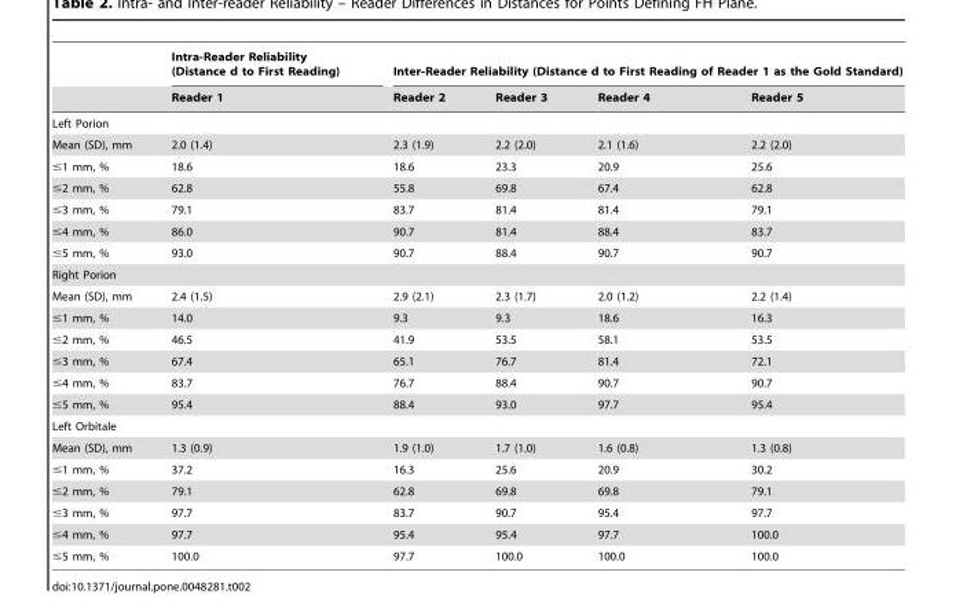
<table><thead><tr><td rowspan="2"></td><td rowspan="2">Intra-Reader Reliability (Distance d to First Reading) Reader 1</td><td colspan="4">Inter-Reader Reliability (Distance d to First Reading of Reader 1 as the Gold Standard)</td></tr><tr><td>Reader 2</td><td>Reader 3</td><td>Reader 4</td><td>Reader 5</td></tr></thead><tbody><tr><td colspan="6">Left Porion</td></tr><tr><td>Mean (SD), mm</td><td>2.0 (1.4)</td><td>2.3 (1.9)</td><td>2.2 (2.0)</td><td>2.1 (1.6)</td><td>2.2 (2.0)</td></tr><tr><td>≤1 mm, %</td><td>18.6</td><td>18.6</td><td>23.3</td><td>20.9</td><td>25.6</td></tr><tr><td>≤2 mm, %</td><td>62.8</td><td>55.8</td><td>69.8</td><td>67.4</td><td>62.8</td></tr><tr><td>≤3 mm, %</td><td>79.1</td><td>83.7</td><td>81.4</td><td>81.4</td><td>79.1</td></tr><tr><td>≤4 mm, %</td><td>86.0</td><td>90.7</td><td>81.4</td><td>88.4</td><td>83.7</td></tr><tr><td>≤5 mm, %</td><td>93.0</td><td>90.7</td><td>88.4</td><td>90.7</td><td>90.7</td></tr><tr><td colspan="6">Right Porion</td></tr><tr><td>Mean (SD), mm</td><td>2.4 (1.5)</td><td>2.9 (2.1)</td><td>2.3 (1.7)</td><td>2.0 (1.2)</td><td>2.2 (1.4)</td></tr><tr><td>≤1 mm, %</td><td>14.0</td><td>9.3</td><td>9.3</td><td>18.6</td><td>16.3</td></tr><tr><td>≤2 mm, %</td><td>46.5</td><td>41.9</td><td>53.5</td><td>58.1</td><td>53.5</td></tr><tr><td>≤3 mm, %</td><td>67.4</td><td>65.1</td><td>76.7</td><td>81.4</td><td>72.1</td></tr><tr><td>≤4 mm, %</td><td>83.7</td><td>76.7</td><td>88.4</td><td>90.7</td><td>90.7</td></tr><tr><td>≤5 mm, %</td><td>95.4</td><td>88.4</td><td>93.0</td><td>97.7</td><td>95.4</td></tr><tr><td colspan="6">Left Orbitale</td></tr><tr><td>Mean (SD), mm</td><td>1.3 (0.9)</td><td>1.9 (1.0)</td><td>1.7 (1.0)</td><td>1.6 (0.8)</td><td>1.3 (0.8)</td></tr><tr><td>≤1 mm, %</td><td>37.2</td><td>16.3</td><td>25.6</td><td>20.9</td><td>30.2</td></tr><tr><td>≤2 mm, %</td><td>79.1</td><td>62.8</td><td>69.8</td><td>69.8</td><td>79.1</td></tr><tr><td>≤3 mm, %</td><td>97.7</td><td>83.7</td><td>90.7</td><td>95.4</td><td>97.7</td></tr><tr><td>≤4 mm, %</td><td>97.7</td><td>95.4</td><td>95.4</td><td>97.7</td><td>100.0</td></tr><tr><td>≤5 mm, %</td><td>100.0</td><td>97.7</td><td>100.0</td><td>100.0</td><td>100.0</td></tr></tbody></table>